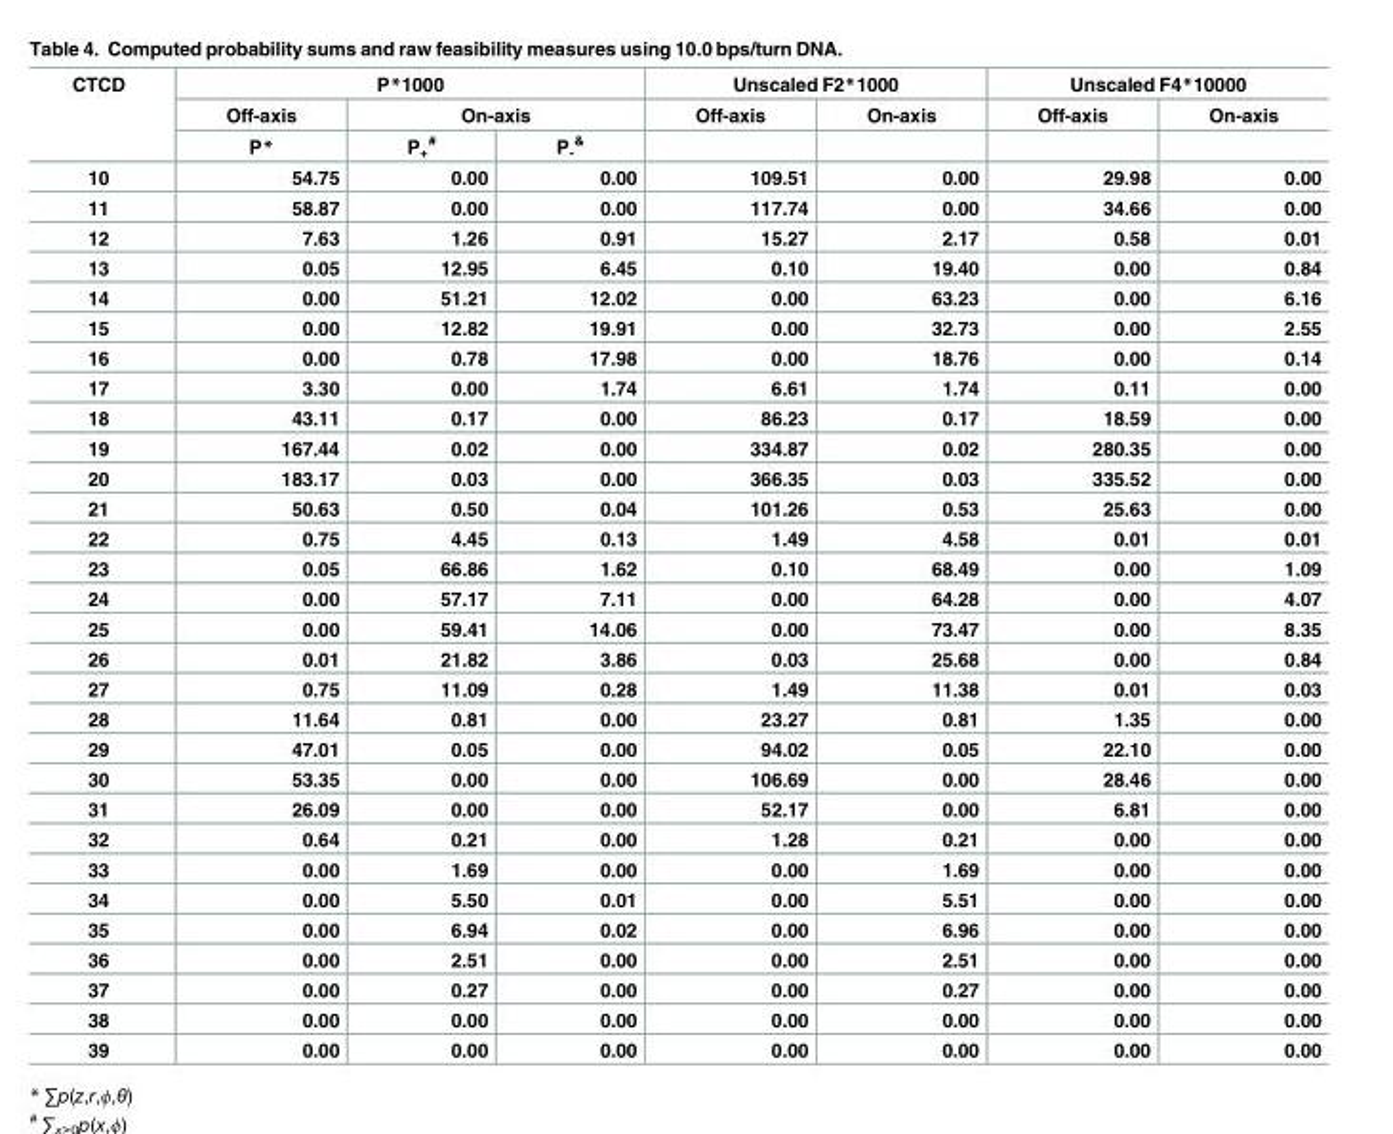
<table><thead><tr><td rowspan="3">CTCD</td><td colspan="3">P*1000</td><td colspan="2">Unscaled F2*1000</td><td colspan="2">Unscaled F4*10000</td></tr><tr><td rowspan="2">Off-axis P*</td><td colspan="2">On-axis</td><td rowspan="2">Off-axis</td><td rowspan="2">On-axis</td><td rowspan="2">Off-axis</td><td rowspan="2">On-axis</td></tr><tr><td>P<sub>+</sub> <sup>#</sup></td><td>P<sub>-</sub> <sup>&amp;</sup></td></tr></thead><tbody><tr><td>10</td><td>54.75</td><td>0.00</td><td>0.00</td><td>109.51</td><td>0.00</td><td>29.98</td><td>0.00</td></tr><tr><td>11</td><td>58.87</td><td>0.00</td><td>0.00</td><td>117.74</td><td>0.00</td><td>34.66</td><td>0.00</td></tr><tr><td>12</td><td>7.63</td><td>1.26</td><td>0.91</td><td>15.27</td><td>2.17</td><td>0.58</td><td>0.01</td></tr><tr><td>13</td><td>0.05</td><td>12.95</td><td>6.45</td><td>0.10</td><td>19.40</td><td>0.00</td><td>0.84</td></tr><tr><td>14</td><td>0.00</td><td>51.21</td><td>12.02</td><td>0.00</td><td>63.23</td><td>0.00</td><td>6.16</td></tr><tr><td>15</td><td>0.00</td><td>12.82</td><td>19.91</td><td>0.00</td><td>32.73</td><td>0.00</td><td>2.55</td></tr><tr><td>16</td><td>0.00</td><td>0.78</td><td>17.98</td><td>0.00</td><td>18.76</td><td>0.00</td><td>0.14</td></tr><tr><td>17</td><td>3.30</td><td>0.00</td><td>1.74</td><td>6.61</td><td>1.74</td><td>0.11</td><td>0.00</td></tr><tr><td>18</td><td>43.11</td><td>0.17</td><td>0.00</td><td>86.23</td><td>0.17</td><td>18.59</td><td>0.00</td></tr><tr><td>19</td><td>167.44</td><td>0.02</td><td>0.00</td><td>334.87</td><td>0.02</td><td>280.35</td><td>0.00</td></tr><tr><td>20</td><td>183.17</td><td>0.03</td><td>0.00</td><td>366.35</td><td>0.03</td><td>335.52</td><td>0.00</td></tr><tr><td>21</td><td>50.63</td><td>0.50</td><td>0.04</td><td>101.26</td><td>0.53</td><td>25.63</td><td>0.00</td></tr><tr><td>22</td><td>0.75</td><td>4.45</td><td>0.13</td><td>1.49</td><td>4.58</td><td>0.01</td><td>0.01</td></tr><tr><td>23</td><td>0.05</td><td>66.86</td><td>1.62</td><td>0.10</td><td>68.49</td><td>0.00</td><td>1.09</td></tr><tr><td>24</td><td>0.00</td><td>57.17</td><td>7.11</td><td>0.00</td><td>64.28</td><td>0.00</td><td>4.07</td></tr><tr><td>25</td><td>0.00</td><td>59.41</td><td>14.06</td><td>0.00</td><td>73.47</td><td>0.00</td><td>8.35</td></tr><tr><td>26</td><td>0.01</td><td>21.82</td><td>3.86</td><td>0.03</td><td>25.68</td><td>0.00</td><td>0.84</td></tr><tr><td>27</td><td>0.75</td><td>11.09</td><td>0.28</td><td>1.49</td><td>11.38</td><td>0.01</td><td>0.03</td></tr><tr><td>28</td><td>11.64</td><td>0.81</td><td>0.00</td><td>23.27</td><td>0.81</td><td>1.35</td><td>0.00</td></tr><tr><td>29</td><td>47.01</td><td>0.05</td><td>0.00</td><td>94.02</td><td>0.05</td><td>22.10</td><td>0.00</td></tr><tr><td>30</td><td>53.35</td><td>0.00</td><td>0.00</td><td>106.69</td><td>0.00</td><td>28.46</td><td>0.00</td></tr><tr><td>31</td><td>26.09</td><td>0.00</td><td>0.00</td><td>52.17</td><td>0.00</td><td>6.81</td><td>0.00</td></tr><tr><td>32</td><td>0.64</td><td>0.21</td><td>0.00</td><td>1.28</td><td>0.21</td><td>0.00</td><td>0.00</td></tr><tr><td>33</td><td>0.00</td><td>1.69</td><td>0.00</td><td>0.00</td><td>1.69</td><td>0.00</td><td>0.00</td></tr><tr><td>34</td><td>0.00</td><td>5.50</td><td>0.01</td><td>0.00</td><td>5.51</td><td>0.00</td><td>0.00</td></tr><tr><td>35</td><td>0.00</td><td>6.94</td><td>0.02</td><td>0.00</td><td>6.96</td><td>0.00</td><td>0.00</td></tr><tr><td>36</td><td>0.00</td><td>2.51</td><td>0.00</td><td>0.00</td><td>2.51</td><td>0.00</td><td>0.00</td></tr><tr><td>37</td><td>0.00</td><td>0.27</td><td>0.00</td><td>0.00</td><td>0.27</td><td>0.00</td><td>0.00</td></tr><tr><td>38</td><td>0.00</td><td>0.00</td><td>0.00</td><td>0.00</td><td>0.00</td><td>0.00</td><td>0.00</td></tr><tr><td>39</td><td>0.00</td><td>0.00</td><td>0.00</td><td>0.00</td><td>0.00</td><td>0.00</td><td>0.00</td></tr></tbody></table>